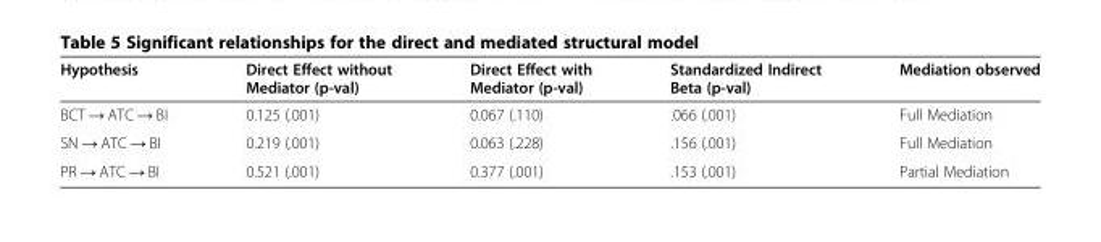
<table><thead><tr><td>Hypothesis</td><td>Direct Effect without Mediator (p-val)</td><td>Direct Effect with Mediator (p-val)</td><td>Standardized Indirect Beta (p-val)</td><td>Mediation observed</td></tr></thead><tbody><tr><td>BCT → ATC → BI</td><td>0.125 (.001)</td><td>0.067 (.110)</td><td>.066 (.001)</td><td>Full Mediation</td></tr><tr><td>SN → ATC → BI</td><td>0.219 (.001)</td><td>0.063 (.228)</td><td>.156 (.001)</td><td>Full Mediation</td></tr><tr><td>PR → ATC → BI</td><td>0.521 (.001)</td><td>0.377 (.001)</td><td>.153 (.001)</td><td>Partial Mediation</td></tr></tbody></table>